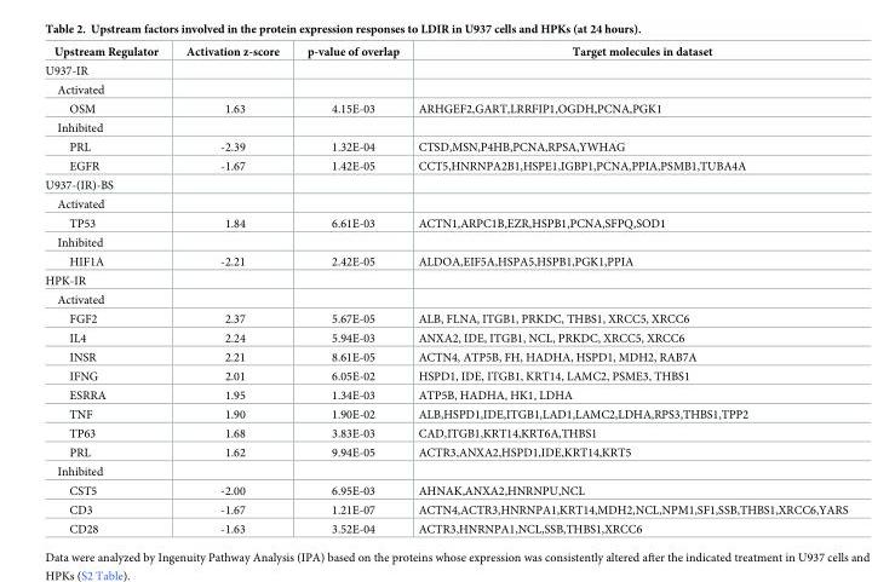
<table><thead><tr><td>Upstream Regulator</td><td>Activation z-score</td><td>p-value of overlap</td><td>Target molecules in dataset</td></tr></thead><tbody><tr><td colspan="4">U937-IR</td></tr><tr><td colspan="4">Activated</td></tr><tr><td>OSM</td><td>1.63</td><td>4.15E-03</td><td>ARHGEF2,GART,LRRFIP1,OGDH,PCNA,PGK1</td></tr><tr><td colspan="4">Inhibited</td></tr><tr><td>PRL</td><td>-2.39</td><td>1.32E-04</td><td>CTSD,MSN,P4HB,PCNA,RPSA,YWHAG</td></tr><tr><td>EGFR</td><td>-1.67</td><td>1.42E-05</td><td>CCT5,HNRNPA2B1,HSPE1,IGBP1,PCNA,PPIA,PSMB1,TUBA4A</td></tr><tr><td colspan="4">U937-(IR)-BS</td></tr><tr><td colspan="4">Activated</td></tr><tr><td>TP53</td><td>1.84</td><td>6.61E-03</td><td>ACTN1,ARPC1B,EZR,HSPB1,PCNA,SFPQ,SOD1</td></tr><tr><td colspan="4">Inhibited</td></tr><tr><td>HIF1A</td><td>-2.21</td><td>2.42E-05</td><td>ALDOA,EIF5A,HSPA5,HSPB1,PGK1,PPIA</td></tr><tr><td colspan="4">HPK-IR</td></tr><tr><td colspan="4">Activated</td></tr><tr><td>FGF2</td><td>2.37</td><td>5.67E-05</td><td>ALB, FLNA, ITGB1, PRKDC, THBS1, XRCC5, XRCC6</td></tr><tr><td>IL4</td><td>2.24</td><td>5.94E-03</td><td>ANXA2, IDE, ITGB1, NCL, PRKDC, XRCC5, XRCC6</td></tr><tr><td>INSR</td><td>2.21</td><td>8.61E-05</td><td>ACTN4, ATP5B, FH, HADHA, HSPD1, MDH2, RAB7A</td></tr><tr><td>IFNG</td><td>2.01</td><td>6.05E-02</td><td>HSPD1, IDE, ITGB1, KRT14, LAMC2, PSME3, THBS1</td></tr><tr><td>ESRRA</td><td>1.95</td><td>1.34E-03</td><td>ATP5B, HADHA, HK1, LDHA</td></tr><tr><td>TNF</td><td>1.90</td><td>1.90E-02</td><td>ALB,HSPD1,IDE,ITGB1,LAD1,LAMC2,LDHA,RPS3,THBS1,TPP2</td></tr><tr><td>TP63</td><td>1.68</td><td>3.83E-03</td><td>CAD,ITGB1,KRT14,KRT6A,THBS1</td></tr><tr><td>PRL</td><td>1.62</td><td>9.94E-05</td><td>ACTR3,ANXA2,HSPD1,IDE,KRT14,KRT5</td></tr><tr><td colspan="4">Inhibited</td></tr><tr><td>CST5</td><td>-2.00</td><td>6.95E-03</td><td>AHNAK,ANXA2,HNRNPU,NCL</td></tr><tr><td>CD3</td><td>-1.67</td><td>1.21E-07</td><td>ACTN4,ACTR3,HNRNPA1,KRT14,MDH2,NCL,NPM1,SF1,SSB,THBS1,XRCC6,YARS</td></tr><tr><td>CD28</td><td>-1.63</td><td>3.52E-04</td><td>ACTR3,HNRNPA1,NCL,SSB,THBS1,XRCC6</td></tr></tbody></table>